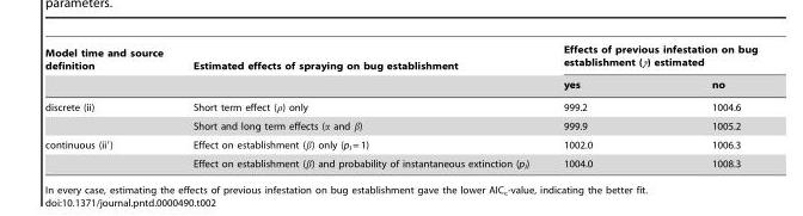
<table><thead><tr><td rowspan="2">Model time and source definition</td><td rowspan="2">Estimated effects of spraying on bug establishment</td><td colspan="2">Effects of previous infestation on bug establishment (γ) estimated</td></tr><tr><td>yes</td><td>no</td></tr></thead><tbody><tr><td rowspan="2">discrete (ii)</td><td>Short term effect (ρ) only</td><td>999.2</td><td>1004.6</td></tr><tr><td>Short and long term effects (α and β)</td><td>999.9</td><td>1005.2</td></tr><tr><td rowspan="2">continuous (ii′)</td><td>Effect on establishment (β) only (p<sub>I</sub> = 1)</td><td>1002.0</td><td>1006.3</td></tr><tr><td>Effect on establishment (β) and probability of instantaneous extinction (p<sub>I</sub>)</td><td>1004.0</td><td>1008.3</td></tr></tbody></table>